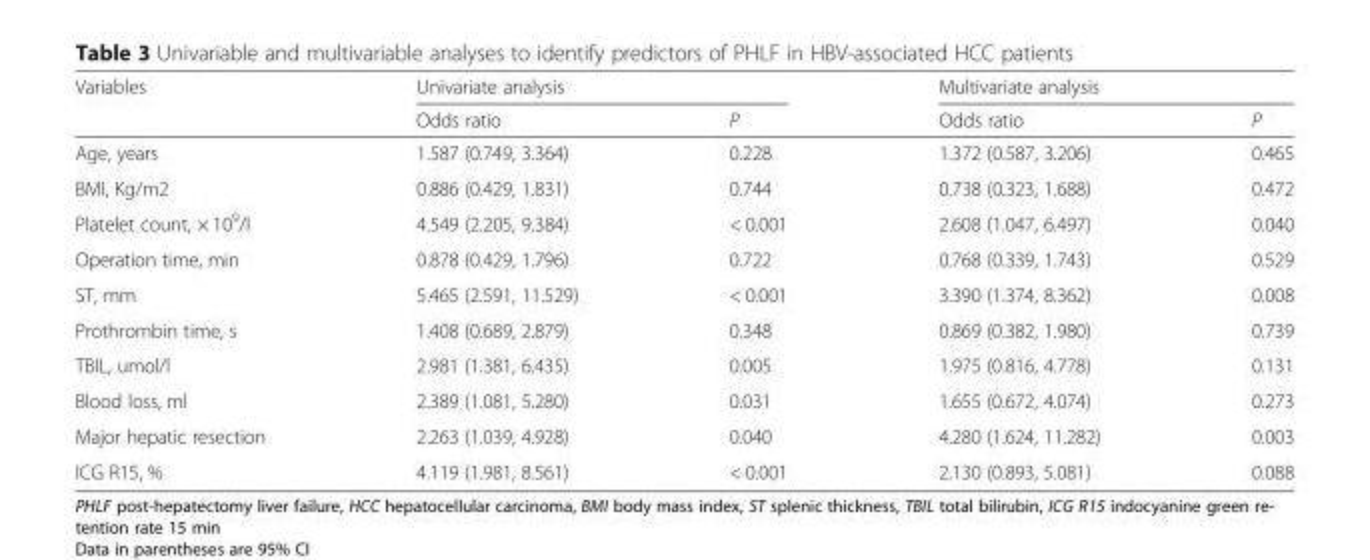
<table><thead><tr><td rowspan="2">Variables</td><td colspan="2">Univariate analysis</td><td colspan="2">Multivariate analysis</td></tr><tr><td>Odds ratio</td><td>P</td><td>Odds ratio</td><td>P</td></tr></thead><tbody><tr><td>Age, years</td><td>1.587 (0.749, 3.364)</td><td>0.228</td><td>1.372 (0.587, 3.206)</td><td>0.465</td></tr><tr><td>BMI, Kg/m2</td><td>0.886 (0.429, 1.831)</td><td>0.744</td><td>0.738 (0.323, 1.688)</td><td>0.472</td></tr><tr><td>Platelet count, × 10<sup>9</sup>/l</td><td>4.549 (2.205, 9.384)</td><td>&lt; 0.001</td><td>2.608 (1.047, 6.497)</td><td>0.040</td></tr><tr><td>Operation time, min</td><td>0.878 (0.429, 1.796)</td><td>0.722</td><td>0.768 (0.339, 1.743)</td><td>0.529</td></tr><tr><td>ST, mm</td><td>5.465 (2.591, 11.529)</td><td>&lt; 0.001</td><td>3.390 (1.374, 8.362)</td><td>0.008</td></tr><tr><td>Prothrombin time, s</td><td>1.408 (0.689, 2.879)</td><td>0.348</td><td>0.869 (0.382, 1.980)</td><td>0.739</td></tr><tr><td>TBIL, umol/l</td><td>2.981 (1.381, 6.435)</td><td>0.005</td><td>1.975 (0.816, 4.778)</td><td>0.131</td></tr><tr><td>Blood loss, ml</td><td>2.389 (1.081, 5.280)</td><td>0.031</td><td>1.655 (0.672, 4.074)</td><td>0.273</td></tr><tr><td>Major hepatic resection</td><td>2.263 (1.039, 4.928)</td><td>0.040</td><td>4.280 (1.624, 11.282)</td><td>0.003</td></tr><tr><td>ICG R15, %</td><td>4.119 (1.981, 8.561)</td><td>&lt; 0.001</td><td>2.130 (0.893, 5.081)</td><td>0.088</td></tr></tbody></table>